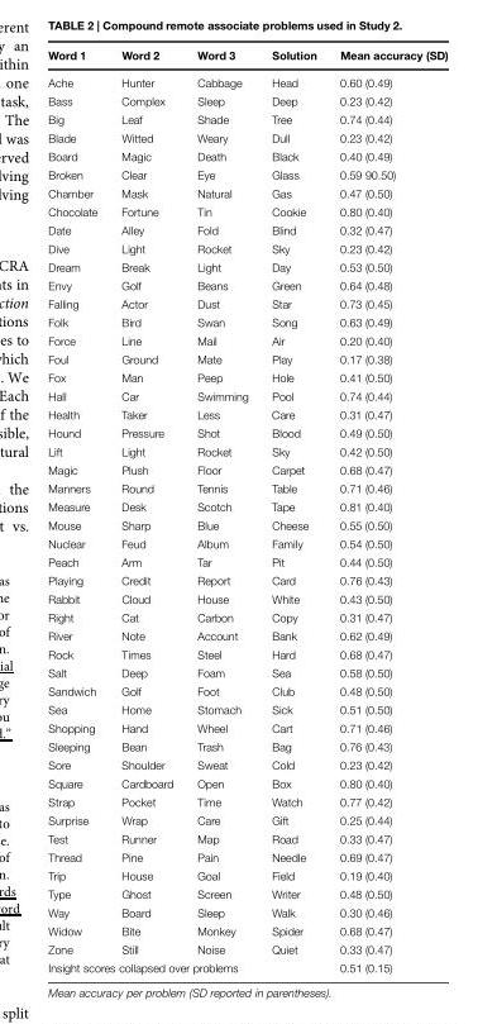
<table><thead><tr><td>Word 1</td><td>Word 2</td><td>Word 3</td><td>Solution</td><td>Mean accuracy (SD)</td></tr></thead><tbody><tr><td>Ache</td><td>Hunter</td><td>Cabbage</td><td>Head</td><td>0.60 (0.49)</td></tr><tr><td>Bass</td><td>Complex</td><td>Sleep</td><td>Deep</td><td>0.23 (0.42)</td></tr><tr><td>Big</td><td>Leaf</td><td>Shade</td><td>Tree</td><td>0.74 (0.44)</td></tr><tr><td>Blade</td><td>Witted</td><td>Weary</td><td>Dull</td><td>0.23 (0.42)</td></tr><tr><td>Board</td><td>Magic</td><td>Death</td><td>Black</td><td>0.40 (0.49)</td></tr><tr><td>Broken</td><td>Clear</td><td>Eye</td><td>Glass</td><td>0.59 90.50)</td></tr><tr><td>Chamber</td><td>Mask</td><td>Natural</td><td>Gas</td><td>0.47 (0.50)</td></tr><tr><td>Chocolate</td><td>Fortune</td><td>Tin</td><td>Cookie</td><td>0.80 (0.40)</td></tr><tr><td>Date</td><td>Alley</td><td>Fold</td><td>Blind</td><td>0.32 (0.47)</td></tr><tr><td>Dive</td><td>Light</td><td>Rocket</td><td>Sky</td><td>0.23 (0.42)</td></tr><tr><td>Dream</td><td>Break</td><td>Light</td><td>Day</td><td>0.53 (0.50)</td></tr><tr><td>Envy</td><td>Golf</td><td>Beans</td><td>Green</td><td>0.64 (0.48)</td></tr><tr><td>Falling</td><td>Actor</td><td>Dust</td><td>Star</td><td>0.73 (0.45)</td></tr><tr><td>Folk</td><td>Bird</td><td>Swan</td><td>Song</td><td>0.63 (0.49)</td></tr><tr><td>Force</td><td>Line</td><td>Mail</td><td>Air</td><td>0.20 (0.40)</td></tr><tr><td>Foul</td><td>Ground</td><td>Mate</td><td>Play</td><td>0.17 (0.38)</td></tr><tr><td>Fox</td><td>Man</td><td>Peep</td><td>Hole</td><td>0.41 (0.50)</td></tr><tr><td>Hall</td><td>Car</td><td>Swimming</td><td>Pool</td><td>0.74 (0.44)</td></tr><tr><td>Health</td><td>Taker</td><td>Less</td><td>Care</td><td>0.31 (0.47)</td></tr><tr><td>Hound</td><td>Pressure</td><td>Shot</td><td>Blood</td><td>0.49 (0.50)</td></tr><tr><td>Lift</td><td>Light</td><td>Rocket</td><td>Sky</td><td>0.42 (0.50)</td></tr><tr><td>Magic</td><td>Plush</td><td>Floor</td><td>Carpet</td><td>0.68 (0.47)</td></tr><tr><td>Manners</td><td>Round</td><td>Tennis</td><td>Table</td><td>0.71 (0.46)</td></tr><tr><td>Measure</td><td>Desk</td><td>Scotch</td><td>Tape</td><td>0.81 (0.40)</td></tr><tr><td>Mouse</td><td>Sharp</td><td>Blue</td><td>Cheese</td><td>0.55 (0.50)</td></tr><tr><td>Nuclear</td><td>Feud</td><td>Album</td><td>Family</td><td>0.54 (0.50)</td></tr><tr><td>Peach</td><td>Arm</td><td>Tar</td><td>Pit</td><td>0.44 (0.50)</td></tr><tr><td>Playing</td><td>Credit</td><td>Report</td><td>Card</td><td>0.76 (0.43)</td></tr><tr><td>Rabbit</td><td>Cloud</td><td>House</td><td>White</td><td>0.43 (0.50)</td></tr><tr><td>Right</td><td>Cat</td><td>Carbon</td><td>Copy</td><td>0.31 (0.47)</td></tr><tr><td>River</td><td>Note</td><td>Account</td><td>Bank</td><td>0.62 (0.49)</td></tr><tr><td>Rock</td><td>Times</td><td>Steel</td><td>Hard</td><td>0.68 (0.47)</td></tr><tr><td>Salt</td><td>Deep</td><td>Foam</td><td>Sea</td><td>0.58 (0.50)</td></tr><tr><td>Sandwich</td><td>Golf</td><td>Foot</td><td>Club</td><td>0.48 (0.50)</td></tr><tr><td>Sea</td><td>Home</td><td>Stomach</td><td>Sick</td><td>0.51 (0.50)</td></tr><tr><td>Shopping</td><td>Hand</td><td>Wheel</td><td>Cart</td><td>0.71 (0.46)</td></tr><tr><td>Sleeping</td><td>Bean</td><td>Trash</td><td>Bag</td><td>0.76 (0.43)</td></tr><tr><td>Sore</td><td>Shoulder</td><td>Sweat</td><td>Cold</td><td>0.23 (0.42)</td></tr><tr><td>Square</td><td>Cardboard</td><td>Open</td><td>Box</td><td>0.80 (0.40)</td></tr><tr><td>Strap</td><td>Pocket</td><td>Time</td><td>Watch</td><td>0.77 (0.42)</td></tr><tr><td>Surprise</td><td>Wrap</td><td>Care</td><td>Gift</td><td>0.25 (0.44)</td></tr><tr><td>Test</td><td>Runner</td><td>Map</td><td>Road</td><td>0.33 (0.47)</td></tr><tr><td>Thread</td><td>Pine</td><td>Pain</td><td>Needle</td><td>0.69 (0.47)</td></tr><tr><td>Trip</td><td>House</td><td>Goal</td><td>Field</td><td>0.19 (0.40)</td></tr><tr><td>Type</td><td>Ghost</td><td>Screen</td><td>Writer</td><td>0.48 (0.50)</td></tr><tr><td>Way</td><td>Board</td><td>Sleep</td><td>Walk</td><td>0.30 (0.46)</td></tr><tr><td>Widow</td><td>Bite</td><td>Monkey</td><td>Spider</td><td>0.68 (0.47)</td></tr><tr><td>Zone</td><td>Still</td><td>Noise</td><td>Quiet</td><td>0.33 (0.47)</td></tr><tr><td colspan="4">Insight scores collapsed over problems</td><td>0.51 (0.15)</td></tr></tbody></table>